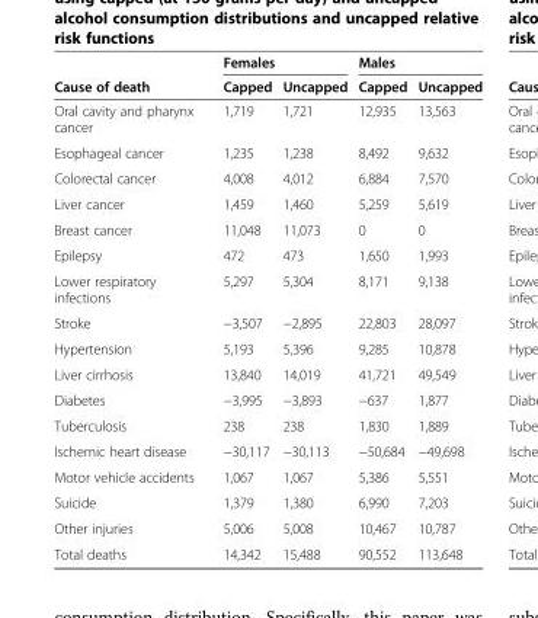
<table><thead><tr><td rowspan="2">Cause of death</td><td colspan="2">Females</td><td colspan="2">Males</td></tr><tr><td>Capped</td><td>Uncapped</td><td>Capped</td><td>Uncapped</td></tr></thead><tbody><tr><td>Oral cavity and pharynx cancer</td><td>1,719</td><td>1,721</td><td>12,935</td><td>13,563</td></tr><tr><td>Esophageal cancer</td><td>1,235</td><td>1,238</td><td>8,492</td><td>9,632</td></tr><tr><td>Colorectal cancer</td><td>4,008</td><td>4,012</td><td>6,884</td><td>7,570</td></tr><tr><td>Liver cancer</td><td>1,459</td><td>1,460</td><td>5,259</td><td>5,619</td></tr><tr><td>Breast cancer</td><td>11,048</td><td>11,073</td><td>0</td><td>0</td></tr><tr><td>Epilepsy</td><td>472</td><td>473</td><td>1,650</td><td>1,993</td></tr><tr><td>Lower respiratory infections</td><td>5,297</td><td>5,304</td><td>8,171</td><td>9,138</td></tr><tr><td>Stroke</td><td>−3,507</td><td>−2,895</td><td>22,803</td><td>28,097</td></tr><tr><td>Hypertension</td><td>5,193</td><td>5,396</td><td>9,285</td><td>10,878</td></tr><tr><td>Liver cirrhosis</td><td>13,840</td><td>14,019</td><td>41,721</td><td>49,549</td></tr><tr><td>Diabetes</td><td>−3,995</td><td>−3,893</td><td>−637</td><td>1,877</td></tr><tr><td>Tuberculosis</td><td>238</td><td>238</td><td>1,830</td><td>1,889</td></tr><tr><td>Ischemic heart disease</td><td>−30,117</td><td>−30,113</td><td>−50,684</td><td>−49,698</td></tr><tr><td>Motor vehicle accidents</td><td>1,067</td><td>1,067</td><td>5,386</td><td>5,551</td></tr><tr><td>Suicide</td><td>1,379</td><td>1,380</td><td>6,990</td><td>7,203</td></tr><tr><td>Other injuries</td><td>5,006</td><td>5,008</td><td>10,467</td><td>10,787</td></tr><tr><td>Total deaths</td><td>14,342</td><td>15,488</td><td>90,552</td><td>113,648</td></tr></tbody></table>